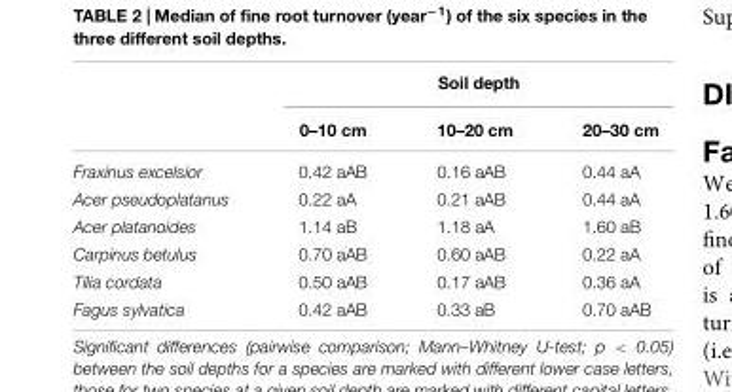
<table><thead><tr><td rowspan="2"></td><td colspan="3">Soil depth</td></tr><tr><td>0–10 cm</td><td>10–20 cm</td><td>20–30 cm</td></tr></thead><tbody><tr><td>Fraxinus excelsior</td><td>0.42 aAB</td><td>0.16 aAB</td><td>0.44 aA</td></tr><tr><td>Acer pseudoplatanus</td><td>0.22 aA</td><td>0.21 aAB</td><td>0.44 aA</td></tr><tr><td>Acer platanoides</td><td>1.14 aB</td><td>1.18 aA</td><td>1.60 aB</td></tr><tr><td>Carpinus betulus</td><td>0.70 aAB</td><td>0.60 aAB</td><td>0.22 aA</td></tr><tr><td>Tilia cordata</td><td>0.50 aAB</td><td>0.17 aAB</td><td>0.36 aA</td></tr><tr><td>Fagus sylvatica</td><td>0.42 aAB</td><td>0.33 aB</td><td>0.70 aAB</td></tr></tbody></table>